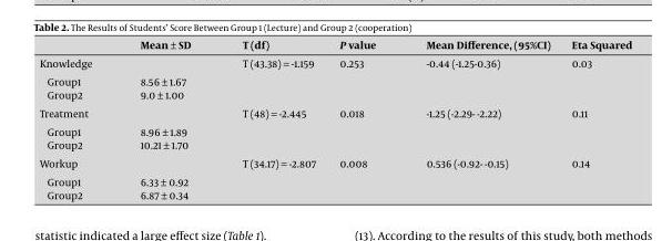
<table><thead><tr><td></td><td>Mean ± SD</td><td>T (df)</td><td>P value</td><td>Mean Difference, (95%CI)</td><td>Eta Squared</td></tr></thead><tbody><tr><td>Knowledge</td><td></td><td>T (43.38) = -1.159</td><td>0.253</td><td>-0.44 (-1.25-0.36)</td><td>0.03</td></tr><tr><td>Group1</td><td>8.56 ± 1.67</td><td></td><td></td><td></td><td></td></tr><tr><td>Group2</td><td>9.0 ± 1.00</td><td></td><td></td><td></td><td></td></tr><tr><td>Treatment</td><td></td><td>T (48) = -2.445</td><td>0.018</td><td>-1.25 (-2.29- -2.22)</td><td>0.11</td></tr><tr><td>Group1</td><td>8.96 ± 1.89</td><td></td><td></td><td></td><td></td></tr><tr><td>Group2</td><td>10.21 ± 1.70</td><td></td><td></td><td></td><td></td></tr><tr><td>Workup</td><td></td><td>T (34.17) = -2.807</td><td>0.008</td><td>0.536 (-0.92- -0.15)</td><td>0.14</td></tr><tr><td>Group1</td><td>6.33 ± 0.92</td><td></td><td></td><td></td><td></td></tr><tr><td>Group2</td><td>6.87 ± 0.34</td><td></td><td></td><td></td><td></td></tr></tbody></table>